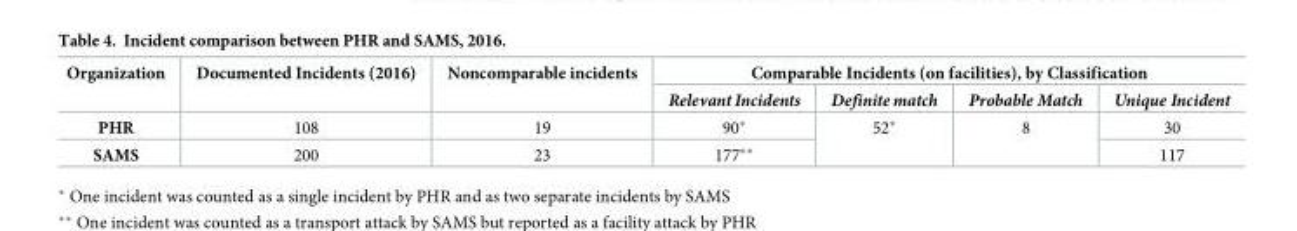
<table><thead><tr><td rowspan="2">Organization</td><td rowspan="2">Documented Incidents (2016)</td><td rowspan="2">Noncomparable incidents</td><td colspan="4">Comparable Incidents (on facilities), by Classification</td></tr><tr><td>Relevant Incidents</td><td>Definite match</td><td>Probable Match</td><td>Unique Incident</td></tr></thead><tbody><tr><td>PHR</td><td>108</td><td>19</td><td>90*</td><td rowspan="2">52*</td><td rowspan="2">8</td><td>30</td></tr><tr><td>SAMS</td><td>200</td><td>23</td><td>177**</td><td>117</td></tr></tbody></table>